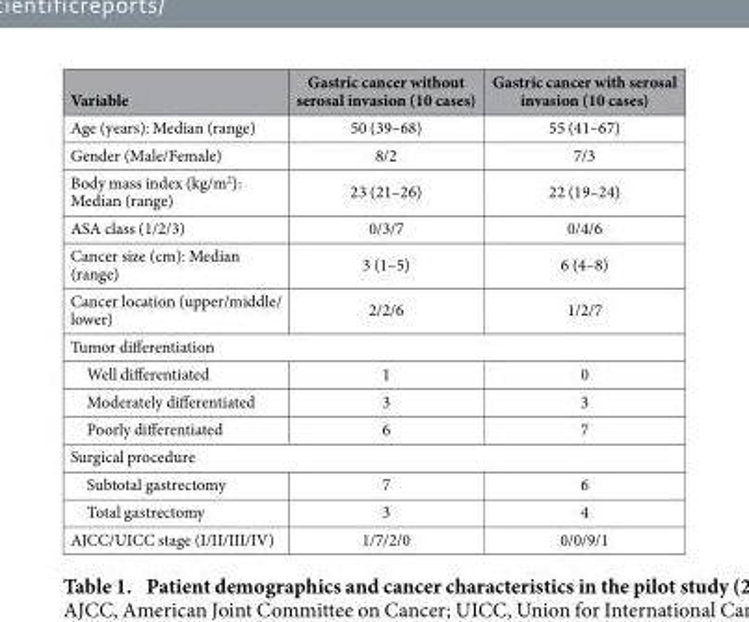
<table><thead><tr><td>Variable</td><td>Gastric cancer without serosal invasion (10 cases)</td><td>Gastric cancer with serosal invasion (10 cases)</td></tr></thead><tbody><tr><td>Age (years): Median (range)</td><td>50 (39–68)</td><td>55 (41–67)</td></tr><tr><td>Gender (Male/Female)</td><td>8/2</td><td>7/3</td></tr><tr><td>Body mass index (kg/m<sup>2</sup>): Median (range)</td><td>23 (21–26)</td><td>22 (19–24)</td></tr><tr><td>ASA class (1/2/3)</td><td>0/3/7</td><td>0/4/6</td></tr><tr><td>Cancer size (cm): Median (range)</td><td>3 (1–5)</td><td>6 (4–8)</td></tr><tr><td>Cancer location (upper/middle/ lower)</td><td>2/2/6</td><td>1/2/7</td></tr><tr><td colspan="3">Tumor differentiation</td></tr><tr><td>Well differentiated</td><td>1</td><td>0</td></tr><tr><td>Moderately differentiated</td><td>3</td><td>3</td></tr><tr><td>Poorly differentiated</td><td>6</td><td>7</td></tr><tr><td colspan="3">Surgical procedure</td></tr><tr><td>Subtotal gastrectomy</td><td>7</td><td>6</td></tr><tr><td>Total gastrectomy</td><td>3</td><td>4</td></tr><tr><td>AJCC/UICC stage (I/II/III/IV)</td><td>1/7/2/0</td><td>0/0/9/1</td></tr></tbody></table>